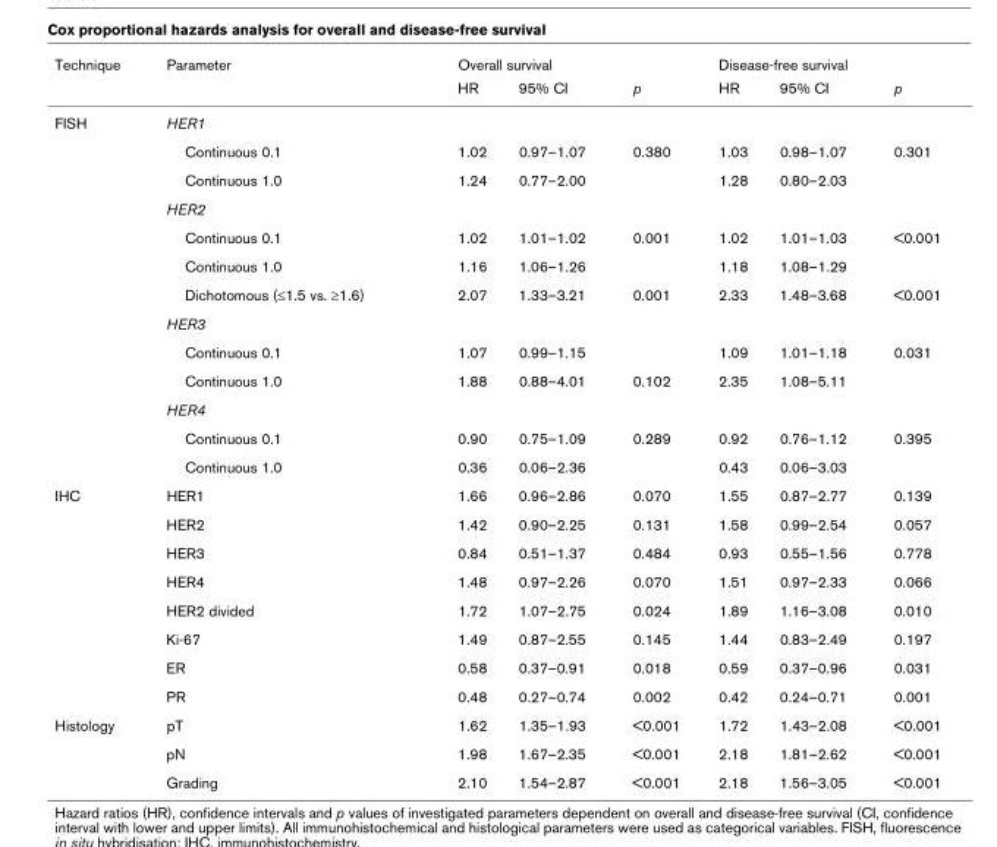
<table><thead><tr><td rowspan="2">Technique</td><td rowspan="2">Parameter</td><td colspan="3">Overall survival</td><td colspan="3">Disease-free survival</td></tr><tr><td>HR</td><td>95% CI</td><td>p</td><td>HR</td><td>95% CI</td><td>p</td></tr></thead><tbody><tr><td rowspan="13">FISH</td><td>HER1</td><td></td><td></td><td></td><td></td><td></td><td></td></tr><tr><td>Continuous 0.1</td><td>1.02</td><td>0.97–1.07</td><td>0.380</td><td>1.03</td><td>0.98–1.07</td><td>0.301</td></tr><tr><td>Continuous 1.0</td><td>1.24</td><td>0.77–2.00</td><td></td><td>1.28</td><td>0.80–2.03</td><td></td></tr><tr><td>HER2</td><td></td><td></td><td></td><td></td><td></td><td></td></tr><tr><td>Continuous 0.1</td><td>1.02</td><td>1.01–1.02</td><td>0.001</td><td>1.02</td><td>1.01–1.03</td><td>&lt;0.001</td></tr><tr><td>Continuous 1.0</td><td>1.16</td><td>1.06–1.26</td><td></td><td>1.18</td><td>1.08–1.29</td><td></td></tr><tr><td>Dichotomous (≤1.5 vs. ≥1.6)</td><td>2.07</td><td>1.33–3.21</td><td>0.001</td><td>2.33</td><td>1.48–3.68</td><td>&lt;0.001</td></tr><tr><td>HER3</td><td></td><td></td><td></td><td></td><td></td><td></td></tr><tr><td>Continuous 0.1</td><td>1.07</td><td>0.99–1.15</td><td></td><td>1.09</td><td>1.01–1.18</td><td>0.031</td></tr><tr><td>Continuous 1.0</td><td>1.88</td><td>0.88–4.01</td><td>0.102</td><td>2.35</td><td>1.08–5.11</td><td></td></tr><tr><td>HER4</td><td></td><td></td><td></td><td></td><td></td><td></td></tr><tr><td>Continuous 0.1</td><td>0.90</td><td>0.75–1.09</td><td>0.289</td><td>0.92</td><td>0.76–1.12</td><td>0.395</td></tr><tr><td>Continuous 1.0</td><td>0.36</td><td>0.06–2.36</td><td></td><td>0.43</td><td>0.06–3.03</td><td></td></tr><tr><td rowspan="8">IHC</td><td>HER1</td><td>1.66</td><td>0.96–2.86</td><td>0.070</td><td>1.55</td><td>0.87–2.77</td><td>0.139</td></tr><tr><td>HER2</td><td>1.42</td><td>0.90–2.25</td><td>0.131</td><td>1.58</td><td>0.99–2.54</td><td>0.057</td></tr><tr><td>HER3</td><td>0.84</td><td>0.51–1.37</td><td>0.484</td><td>0.93</td><td>0.55–1.56</td><td>0.778</td></tr><tr><td>HER4</td><td>1.48</td><td>0.97–2.26</td><td>0.070</td><td>1.51</td><td>0.97–2.33</td><td>0.066</td></tr><tr><td>HER2 divided</td><td>1.72</td><td>1.07–2.75</td><td>0.024</td><td>1.89</td><td>1.16–3.08</td><td>0.010</td></tr><tr><td>Ki-67</td><td>1.49</td><td>0.87–2.55</td><td>0.145</td><td>1.44</td><td>0.83–2.49</td><td>0.197</td></tr><tr><td>ER</td><td>0.58</td><td>0.37–0.91</td><td>0.018</td><td>0.59</td><td>0.37–0.96</td><td>0.031</td></tr><tr><td>PR</td><td>0.48</td><td>0.27–0.74</td><td>0.002</td><td>0.42</td><td>0.24–0.71</td><td>0.001</td></tr><tr><td rowspan="3">Histology</td><td>pT</td><td>1.62</td><td>1.35–1.93</td><td>&lt;0.001</td><td>1.72</td><td>1.43–2.08</td><td>&lt;0.001</td></tr><tr><td>pN</td><td>1.98</td><td>1.67–2.35</td><td>&lt;0.001</td><td>2.18</td><td>1.81–2.62</td><td>&lt;0.001</td></tr><tr><td>Grading</td><td>2.10</td><td>1.54–2.87</td><td>&lt;0.001</td><td>2.18</td><td>1.56–3.05</td><td>&lt;0.001</td></tr></tbody></table>